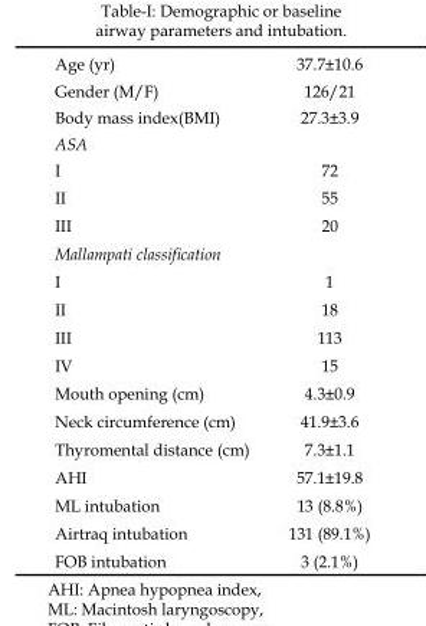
<table><tbody><tr><td>Age (yr)</td><td>37.7±10.6</td></tr><tr><td>Gender (M/F)</td><td>126/21</td></tr><tr><td>Body mass index(BMI)</td><td>27.3±3.9</td></tr><tr><td colspan="2">ASA</td></tr><tr><td>I</td><td>72</td></tr><tr><td>II</td><td>55</td></tr><tr><td>III</td><td>20</td></tr><tr><td colspan="2">Mallampati classification</td></tr><tr><td>I</td><td>1</td></tr><tr><td>II</td><td>18</td></tr><tr><td>III</td><td>113</td></tr><tr><td>IV</td><td>15</td></tr><tr><td>Mouth opening (cm)</td><td>4.3±0.9</td></tr><tr><td>Neck circumference (cm)</td><td>41.9±3.6</td></tr><tr><td>Thyromental distance (cm)</td><td>7.3±1.1</td></tr><tr><td>AHI</td><td>57.1±19.8</td></tr><tr><td>ML intubation</td><td>13 (8.8%)</td></tr><tr><td>Airtraq intubation</td><td>131 (89.1%)</td></tr><tr><td>FOB intubation</td><td>3 (2.1%)</td></tr></tbody></table>